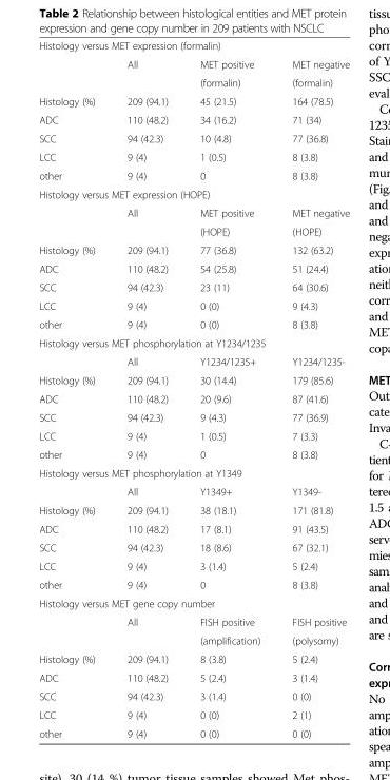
<table><tbody><tr><td colspan="4">Histology versus MET expression (formalin)</td></tr><tr><td rowspan="2"></td><td rowspan="2">All</td><td>MET positive</td><td>MET negative</td></tr><tr><td>(formalin)</td><td>(formalin)</td></tr><tr><td>Histology (%)</td><td>209 (94.1)</td><td>45 (21.5)</td><td>164 (78.5)</td></tr><tr><td>ADC</td><td>110 (48.2)</td><td>34 (16.2)</td><td>71 (34)</td></tr><tr><td>SCC</td><td>94 (42.3)</td><td>10 (4.8)</td><td>77 (36.8)</td></tr><tr><td>LCC</td><td>9 (4)</td><td>1 (0.5)</td><td>8 (3.8)</td></tr><tr><td>other</td><td>9 (4)</td><td>0</td><td>8 (3.8)</td></tr><tr><td colspan="4">Histology versus MET expression (HOPE)</td></tr><tr><td rowspan="2"></td><td rowspan="2">All</td><td>MET positive</td><td>MET negative</td></tr><tr><td>(HOPE)</td><td>(HOPE)</td></tr><tr><td>Histology (%)</td><td>209 (94.1)</td><td>77 (36.8)</td><td>132 (63.2)</td></tr><tr><td>ADC</td><td>110 (48.2)</td><td>54 (25.8)</td><td>51 (24.4)</td></tr><tr><td>SCC</td><td>94 (42.3)</td><td>23 (11)</td><td>64 (30.6)</td></tr><tr><td>LCC</td><td>9 (4)</td><td>0 (0)</td><td>9 (4.3)</td></tr><tr><td>other</td><td>9 (4)</td><td>0 (0)</td><td>8 (3.8)</td></tr><tr><td colspan="4">Histology versus MET phosphorylation at Y1234/1235</td></tr><tr><td></td><td>All</td><td>Y1234/1235+</td><td>Y1234/1235-</td></tr><tr><td>Histology (%)</td><td>209 (94.1)</td><td>30 (14.4)</td><td>179 (85.6)</td></tr><tr><td>ADC</td><td>110 (48.2)</td><td>20 (9.6)</td><td>87 (41.6)</td></tr><tr><td>SCC</td><td>94 (42.3)</td><td>9 (4.3)</td><td>77 (36.9)</td></tr><tr><td>LCC</td><td>9 (4)</td><td>1 (0.5)</td><td>7 (3.3)</td></tr><tr><td>other</td><td>9 (4)</td><td>0</td><td>8 (3.8)</td></tr><tr><td colspan="4">Histology versus MET phosphorylation at Y1349</td></tr><tr><td></td><td>All</td><td>Y1349+</td><td>Y1349-</td></tr><tr><td>Histology (%)</td><td>209 (94.1)</td><td>38 (18.1)</td><td>171 (81.8)</td></tr><tr><td>ADC</td><td>110 (48.2)</td><td>17 (8.1)</td><td>91 (43.5)</td></tr><tr><td>SCC</td><td>94 (42.3)</td><td>18 (8.6)</td><td>67 (32.1)</td></tr><tr><td>LCC</td><td>9 (4)</td><td>3 (1.4)</td><td>5 (2.4)</td></tr><tr><td>other</td><td>9 (4)</td><td>0</td><td>8 (3.8)</td></tr><tr><td colspan="4">Histology versus MET gene copy number</td></tr><tr><td rowspan="2"></td><td rowspan="2">All</td><td>FISH positive</td><td>FISH positive</td></tr><tr><td>(amplification)</td><td>(polysomy)</td></tr><tr><td>Histology (%)</td><td>209 (94.1)</td><td>8 (3.8)</td><td>5 (2.4)</td></tr><tr><td>ADC</td><td>110 (48.2)</td><td>5 (2.4)</td><td>3 (1.4)</td></tr><tr><td>SCC</td><td>94 (42.3)</td><td>3 (1.4)</td><td>0 (0)</td></tr><tr><td>LCC</td><td>9 (4)</td><td>0 (0)</td><td>2 (1)</td></tr><tr><td>other</td><td>9 (4)</td><td>0 (0)</td><td>0 (0)</td></tr></tbody></table>